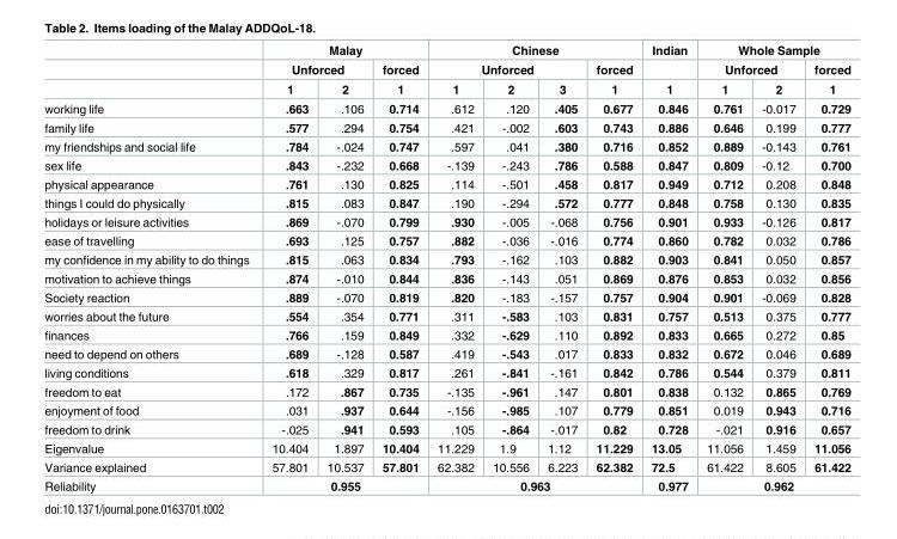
<table><thead><tr><td rowspan="3"></td><td colspan="3">Malay</td><td colspan="4">Chinese</td><td rowspan="3">Indian 1</td><td colspan="3">Whole Sample</td></tr><tr><td colspan="2">Unforced</td><td rowspan="2">forced 1</td><td colspan="3">Unforced</td><td rowspan="2">forced 1</td><td colspan="2">Unforced</td><td rowspan="2">forced 1</td></tr><tr><td>1</td><td>2</td><td>1</td><td>2</td><td>3</td><td>1</td><td>2</td></tr></thead><tbody><tr><td>working life</td><td>.663</td><td>.106</td><td>0.714</td><td>.612</td><td>.120</td><td>.405</td><td>0.677</td><td>0.846</td><td>0.761</td><td>-0.017</td><td>0.729</td></tr><tr><td>family life</td><td>.577</td><td>.294</td><td>0.754</td><td>.421</td><td>-.002</td><td>.603</td><td>0.743</td><td>0.886</td><td>0.646</td><td>0.199</td><td>0.777</td></tr><tr><td>my friendships and social life</td><td>.784</td><td>-.024</td><td>0.747</td><td>.597</td><td>.041</td><td>.380</td><td>0.716</td><td>0.852</td><td>0.889</td><td>-0.143</td><td>0.761</td></tr><tr><td>sex life</td><td>.843</td><td>-.232</td><td>0.668</td><td>-.139</td><td>-.243</td><td>.786</td><td>0.588</td><td>0.847</td><td>0.809</td><td>-0.12</td><td>0.700</td></tr><tr><td>physical appearance</td><td>.761</td><td>.130</td><td>0.825</td><td>.114</td><td>-.501</td><td>.458</td><td>0.817</td><td>0.949</td><td>0.712</td><td>0.208</td><td>0.848</td></tr><tr><td>things I could do physically</td><td>.815</td><td>.083</td><td>0.847</td><td>.190</td><td>-.294</td><td>.572</td><td>0.777</td><td>0.848</td><td>0.758</td><td>0.130</td><td>0.835</td></tr><tr><td>holidays or leisure activities</td><td>.869</td><td>-.070</td><td>0.799</td><td>.930</td><td>-.005</td><td>-.068</td><td>0.756</td><td>0.901</td><td>0.933</td><td>-0.126</td><td>0.817</td></tr><tr><td>ease of travelling</td><td>.693</td><td>.125</td><td>0.757</td><td>.882</td><td>-.036</td><td>-.016</td><td>0.774</td><td>0.860</td><td>0.782</td><td>0.032</td><td>0.786</td></tr><tr><td>my confidence in my ability to do things</td><td>.815</td><td>.063</td><td>0.834</td><td>.793</td><td>-.162</td><td>.103</td><td>0.882</td><td>0.903</td><td>0.841</td><td>0.050</td><td>0.857</td></tr><tr><td>motivation to achieve things</td><td>.874</td><td>-.010</td><td>0.844</td><td>.836</td><td>-.143</td><td>.051</td><td>0.869</td><td>0.876</td><td>0.853</td><td>0.032</td><td>0.856</td></tr><tr><td>Society reaction</td><td>.889</td><td>-.070</td><td>0.819</td><td>.820</td><td>-.183</td><td>-.157</td><td>0.757</td><td>0.904</td><td>0.901</td><td>-0.069</td><td>0.828</td></tr><tr><td>worries about the future</td><td>.554</td><td>.354</td><td>0.771</td><td>.311</td><td>-.583</td><td>.103</td><td>0.831</td><td>0.757</td><td>0.513</td><td>0.375</td><td>0.777</td></tr><tr><td>finances</td><td>.766</td><td>.159</td><td>0.849</td><td>.332</td><td>-.629</td><td>.110</td><td>0.892</td><td>0.833</td><td>0.665</td><td>0.272</td><td>0.85</td></tr><tr><td>need to depend on others</td><td>.689</td><td>-.128</td><td>0.587</td><td>.419</td><td>-.543</td><td>.017</td><td>0.833</td><td>0.832</td><td>0.672</td><td>0.046</td><td>0.689</td></tr><tr><td>living conditions</td><td>.618</td><td>.329</td><td>0.817</td><td>.261</td><td>-.841</td><td>-.161</td><td>0.842</td><td>0.786</td><td>0.544</td><td>0.379</td><td>0.811</td></tr><tr><td>freedom to eat</td><td>.172</td><td>.867</td><td>0.735</td><td>-.135</td><td>-.961</td><td>.147</td><td>0.801</td><td>0.838</td><td>0.132</td><td>0.865</td><td>0.769</td></tr><tr><td>enjoyment of food</td><td>.031</td><td>.937</td><td>0.644</td><td>-.156</td><td>-.985</td><td>.107</td><td>0.779</td><td>0.851</td><td>0.019</td><td>0.943</td><td>0.716</td></tr><tr><td>freedom to drink</td><td>-.025</td><td>.941</td><td>0.593</td><td>.105</td><td>-.864</td><td>-.017</td><td>0.82</td><td>0.728</td><td>-.021</td><td>0.916</td><td>0.657</td></tr><tr><td>Eigenvalue</td><td>10.404</td><td>1.897</td><td>10.404</td><td>11.229</td><td>1.9</td><td>1.12</td><td>11.229</td><td>13.05</td><td>11.056</td><td>1.459</td><td>11.056</td></tr><tr><td>Variance explained</td><td>57.801</td><td>10.537</td><td>57.801</td><td>62.382</td><td>10.556</td><td>6.223</td><td>62.382</td><td>72.5</td><td>61.422</td><td>8.605</td><td>61.422</td></tr><tr><td>Reliability</td><td colspan="3">0.955</td><td colspan="4">0.963</td><td>0.977</td><td colspan="3">0.962</td></tr></tbody></table>